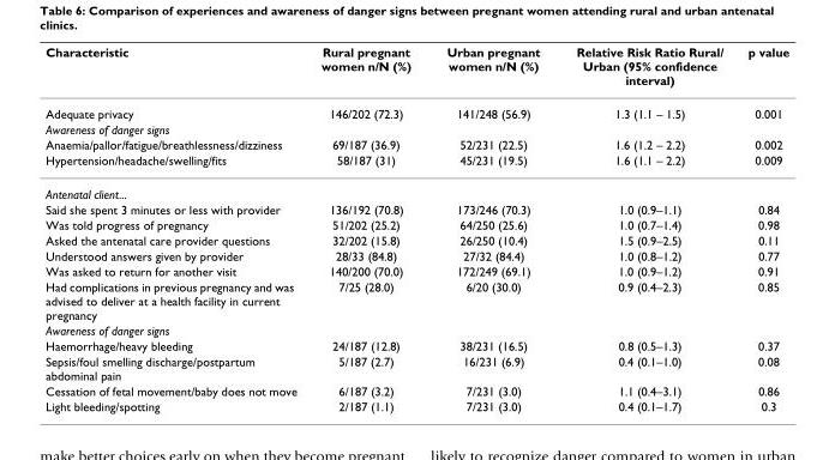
<table><thead><tr><td>Characteristic</td><td>Rural pregnant women n/N (%)</td><td>Urban pregnant women n/N (%)</td><td>Relative Risk Ratio Rural/ Urban (95% confidence interval)</td><td>p value</td></tr></thead><tbody><tr><td>Adequate privacy</td><td>146/202 (72.3)</td><td>141/248 (56.9)</td><td>1.3 (1.1 – 1.5)</td><td>0.001</td></tr><tr><td colspan="5">Awareness of danger signs</td></tr><tr><td>Anaemia/pallor/fatigue/breathlessness/dizziness</td><td>69/187 (36.9)</td><td>52/231 (22.5)</td><td>1.6 (1.2 – 2.2)</td><td>0.002</td></tr><tr><td>Hypertension/headache/swelling/fits</td><td>58/187 (31)</td><td>45/231 (19.5)</td><td>1.6 (1.1 – 2.2)</td><td>0.009</td></tr><tr><td colspan="5">Antenatal client...</td></tr><tr><td>Said she spent 3 minutes or less with provider</td><td>136/192 (70.8)</td><td>173/246 (70.3)</td><td>1.0 (0.9–1.1)</td><td>0.84</td></tr><tr><td>Was told progress of pregnancy</td><td>51/202 (25.2)</td><td>64/250 (25.6)</td><td>1.0 (0.7–1.4)</td><td>0.98</td></tr><tr><td>Asked the antenatal care provider questions</td><td>32/202 (15.8)</td><td>26/250 (10.4)</td><td>1.5 (0.9–2.5)</td><td>0.11</td></tr><tr><td>Understood answers given by provider</td><td>28/33 (84.8)</td><td>27/32 (84.4)</td><td>1.0 (0.8–1.2)</td><td>0.77</td></tr><tr><td>Was asked to return for another visit</td><td>140/200 (70.0)</td><td>172/249 (69.1)</td><td>1.0 (0.9–1.2)</td><td>0.91</td></tr><tr><td>Had complications in previous pregnancy and was advised to deliver at a health facility in current pregnancy</td><td>7/25 (28.0)</td><td>6/20 (30.0)</td><td>0.9 (0.4–2.3)</td><td>0.85</td></tr><tr><td colspan="5">Awareness of danger signs</td></tr><tr><td>Haemorrhage/heavy bleeding</td><td>24/187 (12.8)</td><td>38/231 (16.5)</td><td>0.8 (0.5–1.3)</td><td>0.37</td></tr><tr><td>Sepsis/foul smelling discharge/postpartum abdominal pain</td><td>5/187 (2.7)</td><td>16/231 (6.9)</td><td>0.4 (0.1–1.0)</td><td>0.08</td></tr><tr><td>Cessation of fetal movement/baby does not move</td><td>6/187 (3.2)</td><td>7/231 (3.0)</td><td>1.1 (0.4–3.1)</td><td>0.86</td></tr><tr><td>Light bleeding/spotting</td><td>2/187 (1.1)</td><td>7/231 (3.0)</td><td>0.4 (0.1–1.7)</td><td>0.3</td></tr></tbody></table>